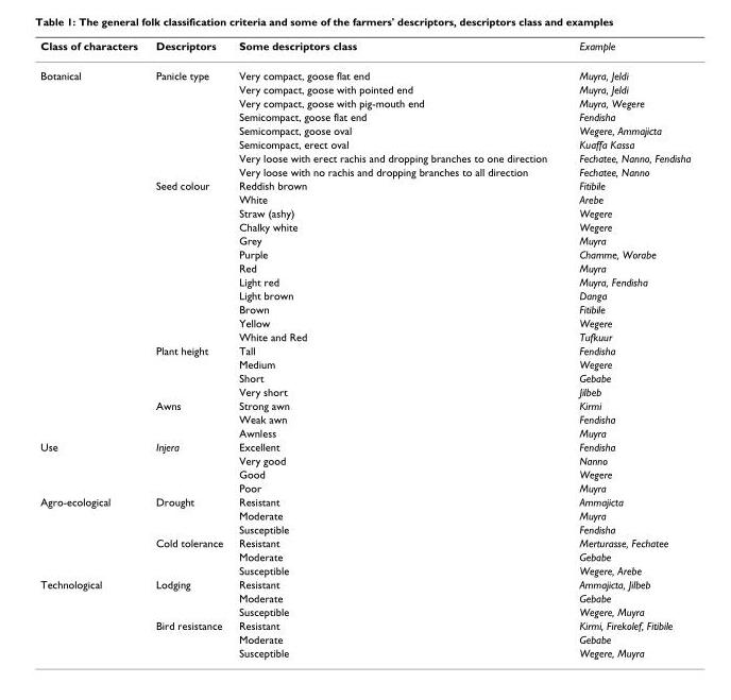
<table><thead><tr><td>Class of characters</td><td>Descriptors</td><td>Some descriptors class</td><td>Example</td></tr></thead><tbody><tr><td rowspan="27">Botanical</td><td>Panicle type</td><td>Very compact, goose flat end</td><td>Muyra, Jeldi</td></tr><tr><td></td><td>Very compact, goose with pointed end</td><td>Muyra, Jeldi</td></tr><tr><td></td><td>Very compact, goose with pig-mouth end</td><td>Muyra, Wegere</td></tr><tr><td></td><td>Semicompact, goose flat end</td><td>Fendisha</td></tr><tr><td></td><td>Semicompact, goose oval</td><td>Wegere, Ammajicta</td></tr><tr><td></td><td>Semicompact, erect oval</td><td>Kuaffa Kassa</td></tr><tr><td></td><td>Very loose with erect rachis and dropping branches to one direction</td><td>Fechatee, Nanno, Fendisha</td></tr><tr><td></td><td>Very loose with no rachis and dropping branches to all direction</td><td>Fechatee, Nanno</td></tr><tr><td>Seed colour</td><td>Reddish brown</td><td>Fitibile</td></tr><tr><td></td><td>White</td><td>Arebe</td></tr><tr><td></td><td>Straw (ashy)</td><td>Wegere</td></tr><tr><td></td><td>Chalky white</td><td>Wegere</td></tr><tr><td></td><td>Grey</td><td>Muyra</td></tr><tr><td></td><td>Purple</td><td>Chamme, Worabe</td></tr><tr><td></td><td>Red</td><td>Muyra</td></tr><tr><td></td><td>Light red</td><td>Muyra, Fendisha</td></tr><tr><td></td><td>Light brown</td><td>Danga</td></tr><tr><td></td><td>Brown</td><td>Fitibile</td></tr><tr><td></td><td>Yellow</td><td>Wegere</td></tr><tr><td></td><td>White and Red</td><td>Tufkuur</td></tr><tr><td>Plant height</td><td>Tall</td><td>Fendisha</td></tr><tr><td></td><td>Medium</td><td>Wegere</td></tr><tr><td></td><td>Short</td><td>Gebabe</td></tr><tr><td></td><td>Very short</td><td>Jilbeb</td></tr><tr><td>Awns</td><td>Strong awn</td><td>Kirmi</td></tr><tr><td></td><td>Weak awn</td><td>Fendisha</td></tr><tr><td></td><td>Awnless</td><td>Muyra</td></tr><tr><td rowspan="4">Use</td><td>Injera</td><td>Excellent</td><td>Fendisha</td></tr><tr><td></td><td>Very good</td><td>Nanno</td></tr><tr><td></td><td>Good</td><td>Wegere</td></tr><tr><td></td><td>Poor</td><td>Muyra</td></tr><tr><td rowspan="6">Agro-ecological</td><td>Drought</td><td>Resistant</td><td>Ammajicta</td></tr><tr><td></td><td>Moderate</td><td>Muyra</td></tr><tr><td></td><td>Susceptible</td><td>Fendisha</td></tr><tr><td>Cold tolerance</td><td>Resistant</td><td>Merturasse, Fechatee</td></tr><tr><td></td><td>Moderate</td><td>Gebabe</td></tr><tr><td></td><td>Susceptible</td><td>Wegere, Arebe</td></tr><tr><td rowspan="6">Technological</td><td>Lodging</td><td>Resistant</td><td>Ammajicta, Jilbeb</td></tr><tr><td></td><td>Moderate</td><td>Gebabe</td></tr><tr><td></td><td>Susceptible</td><td>Wegere, Muyra</td></tr><tr><td>Bird resistance</td><td>Resistant</td><td>Kirmi, Firekolef, Fitibile</td></tr><tr><td></td><td>Moderate</td><td>Gebabe</td></tr><tr><td></td><td>Susceptible</td><td>Wegere, Muyra</td></tr></tbody></table>